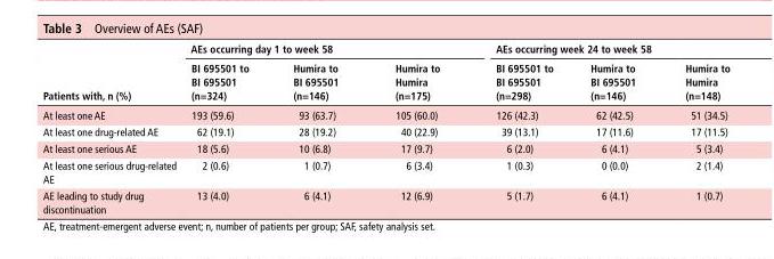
<table><thead><tr><td rowspan="2">Patients with, n (%)</td><td colspan="3">Aes occurring day 1 to week 58</td><td colspan="3">Aes occurring week 24 to week 58</td></tr><tr><td>bI 695501 to bI 695501 (n=324)</td><td>humira to bI 695501 (n=146)</td><td>humira to humira (n=175)</td><td>bI 695501 to bI 695501 (n=298)</td><td>humira to bI 695501 (n=146)</td><td>humira to humira (n=148)</td></tr></thead><tbody><tr><td>At least one AE</td><td>193 (59.6)</td><td>93 (63.7)</td><td>105 (60.0)</td><td>126 (42.3)</td><td>62 (42.5)</td><td>51 (34.5)</td></tr><tr><td>At least one drug-related AE</td><td>62 (19.1)</td><td>28 (19.2)</td><td>40 (22.9)</td><td>39 (13.1)</td><td>17 (11.6)</td><td>17 (11.5)</td></tr><tr><td>At least one serious AE</td><td>18 (5.6)</td><td>10 (6.8)</td><td>17 (9.7)</td><td>6 (2.0)</td><td>6 (4.1)</td><td>5 (3.4)</td></tr><tr><td>At least one serious drug-related AE</td><td>2 (0.6)</td><td>1 (0.7)</td><td>6 (3.4)</td><td>1 (0.3)</td><td>0 (0.0)</td><td>2 (1.4)</td></tr><tr><td>AE leading to study drug discontinuation</td><td>13 (4.0)</td><td>6 (4.1)</td><td>12 (6.9)</td><td>5 (1.7)</td><td>6 (4.1)</td><td>1 (0.7)</td></tr></tbody></table>